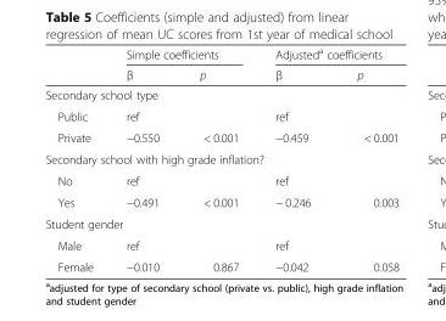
<table><thead><tr><td rowspan="2"></td><td colspan="2">Simple coefficients</td><td colspan="2">Adjusted<sup>a</sup> coefficients</td></tr><tr><td>β</td><td>p</td><td>β</td><td>p</td></tr></thead><tbody><tr><td colspan="5">Secondary school type</td></tr><tr><td>Public</td><td>ref</td><td></td><td>ref</td><td></td></tr><tr><td>Private</td><td>−0.550</td><td>&lt; 0.001</td><td>−0.459</td><td>&lt; 0.001</td></tr><tr><td colspan="5">Secondary school with high grade inflation?</td></tr><tr><td>No</td><td>ref</td><td></td><td>ref</td><td></td></tr><tr><td>Yes</td><td>−0.491</td><td>&lt; 0.001</td><td>− 0.246</td><td>0.003</td></tr><tr><td colspan="5">Student gender</td></tr><tr><td>Male</td><td>ref</td><td></td><td>ref</td><td></td></tr><tr><td>Female</td><td>−0.010</td><td>0.867</td><td>−0.042</td><td>0.058</td></tr></tbody></table>